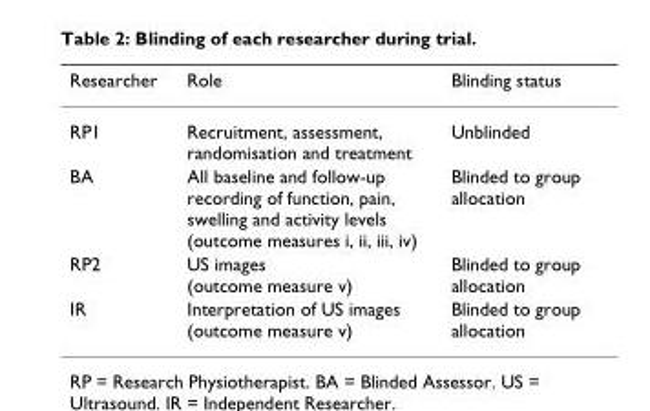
<table><thead><tr><td>Researcher</td><td>Role</td><td>Blinding status</td></tr></thead><tbody><tr><td>RP1</td><td>Recruitment, assessment, randomisation and treatment</td><td>Unblinded</td></tr><tr><td>BA</td><td>All baseline and follow-up recording of function, pain, swelling and activity levels (outcome measures i, ii, iii, iv)</td><td>Blinded to group allocation</td></tr><tr><td>RP2</td><td>US images (outcome measure v)</td><td>Blinded to group allocation</td></tr><tr><td>IR</td><td>Interpretation of US images (outcome measure v)</td><td>Blinded to group allocation</td></tr></tbody></table>